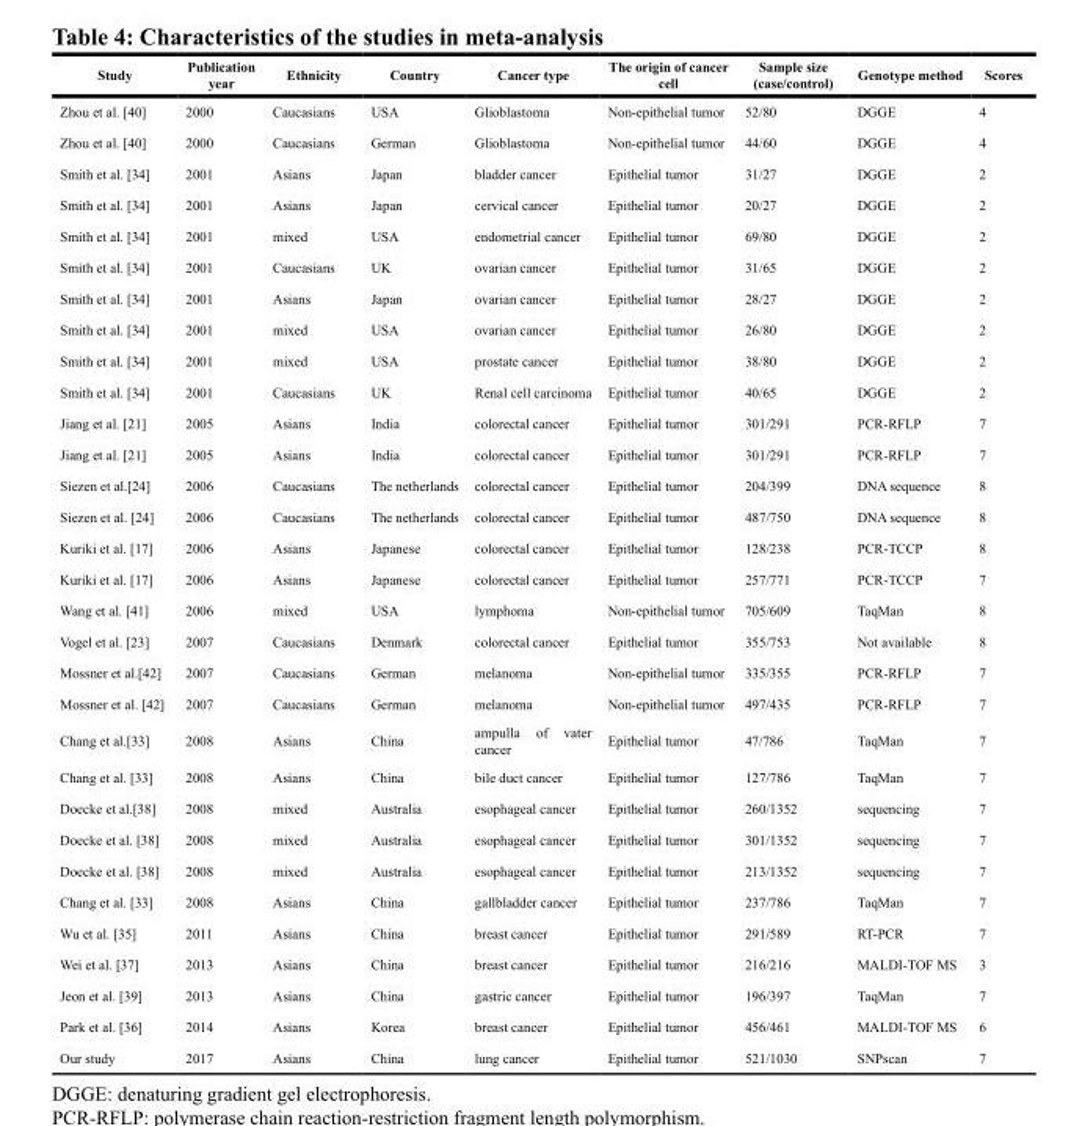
<table><thead><tr><td>Study</td><td>Publication year</td><td>Ethnicity</td><td>Country</td><td>Cancer type</td><td>The origin of cancer cell</td><td>Sample size (case/control)</td><td>Genotype method</td><td>Scores</td></tr></thead><tbody><tr><td>Zhou et al. [40]</td><td>2000</td><td>Caucasians</td><td>USA</td><td>Glioblastoma</td><td>Non-epithelial tumor</td><td>52/80</td><td>DGGE</td><td>4</td></tr><tr><td>Zhou et al. [40]</td><td>2000</td><td>Caucasians</td><td>German</td><td>Glioblastoma</td><td>Non-epithelial tumor</td><td>44/60</td><td>DGGE</td><td>4</td></tr><tr><td>Smith et al. [34]</td><td>2001</td><td>Asians</td><td>Japan</td><td>bladder cancer</td><td>Epithelial tumor</td><td>31/27</td><td>DGGE</td><td>2</td></tr><tr><td>Smith et al. [34]</td><td>2001</td><td>Asians</td><td>Japan</td><td>cervical cancer</td><td>Epithelial tumor</td><td>20/27</td><td>DGGE</td><td>2</td></tr><tr><td>Smith et al. [34]</td><td>2001</td><td>mixed</td><td>USA</td><td>endometrial cancer</td><td>Epithelial tumor</td><td>69/80</td><td>DGGE</td><td>2</td></tr><tr><td>Smith et al. [34]</td><td>2001</td><td>Caucasians</td><td>UK</td><td>ovarian cancer</td><td>Epithelial tumor</td><td>31/65</td><td>DGGE</td><td>2</td></tr><tr><td>Smith et al. [34]</td><td>2001</td><td>Asians</td><td>Japan</td><td>ovarian cancer</td><td>Epithelial tumor</td><td>28/27</td><td>DGGE</td><td>2</td></tr><tr><td>Smith et al. [34]</td><td>2001</td><td>mixed</td><td>USA</td><td>ovarian cancer</td><td>Epithelial tumor</td><td>26/80</td><td>DGGE</td><td>2</td></tr><tr><td>Smith et al. [34]</td><td>2001</td><td>mixed</td><td>USA</td><td>prostate cancer</td><td>Epithelial tumor</td><td>38/80</td><td>DGGE</td><td>2</td></tr><tr><td>Smith et al. [34]</td><td>2001</td><td>Caucasians</td><td>UK</td><td>Renal cell carcinoma</td><td>Epithelial tumor</td><td>40/65</td><td>DGGE</td><td>2</td></tr><tr><td>Jiang et al. [21]</td><td>2005</td><td>Asians</td><td>India</td><td>colorectal cancer</td><td>Epithelial tumor</td><td>301/291</td><td>PCR-RFLP</td><td>7</td></tr><tr><td>Jiang et al. [21]</td><td>2005</td><td>Asians</td><td>India</td><td>colorectal cancer</td><td>Epithelial tumor</td><td>301/291</td><td>PCR-RFLP</td><td>7</td></tr><tr><td>Siezen et al.[24]</td><td>2006</td><td>Caucasians</td><td>The netherlands</td><td>colorectal cancer</td><td>Epithelial tumor</td><td>204/399</td><td>DNA sequence</td><td>8</td></tr><tr><td>Siezen et al. [24]</td><td>2006</td><td>Caucasians</td><td>The netherlands</td><td>colorectal cancer</td><td>Epithelial tumor</td><td>487/750</td><td>DNA sequence</td><td>8</td></tr><tr><td>Kuriki et al. [17]</td><td>2006</td><td>Asians</td><td>Japanese</td><td>colorectal cancer</td><td>Epithelial tumor</td><td>128/238</td><td>PCR-TCCP</td><td>8</td></tr><tr><td>Kuriki et al. [17]</td><td>2006</td><td>Asians</td><td>Japanese</td><td>colorectal cancer</td><td>Epithelial tumor</td><td>257/771</td><td>PCR-TCCP</td><td>7</td></tr><tr><td>Wang et al. [41]</td><td>2006</td><td>mixed</td><td>USA</td><td>lymphoma</td><td>Non-epithelial tumor</td><td>705/609</td><td>TaqMan</td><td>8</td></tr><tr><td>Vogel et al. [23]</td><td>2007</td><td>Caucasians</td><td>Denmark</td><td>colorectal cancer</td><td>Epithelial tumor</td><td>355/753</td><td>Not available</td><td>8</td></tr><tr><td>Mossner et al.[42]</td><td>2007</td><td>Caucasians</td><td>German</td><td>melanoma</td><td>Non-epithelial tumor</td><td>335/355</td><td>PCR-RFLP</td><td>7</td></tr><tr><td>Mossner et al. [42]</td><td>2007</td><td>Caucasians</td><td>German</td><td>melanoma</td><td>Non-epithelial tumor</td><td>497/435</td><td>PCR-RFLP</td><td>7</td></tr><tr><td>Chang et al.[33]</td><td>2008</td><td>Asians</td><td>China</td><td>ampulla of vater cancer</td><td>Epithelial tumor</td><td>47/786</td><td>TaqMan</td><td>7</td></tr><tr><td>Chang et al. [33]</td><td>2008</td><td>Asians</td><td>China</td><td>bile duct cancer</td><td>Epithelial tumor</td><td>127/786</td><td>TaqMan</td><td>7</td></tr><tr><td>Doecke et al.[38]</td><td>2008</td><td>mixed</td><td>Australia</td><td>esophageal cancer</td><td>Epithelial tumor</td><td>260/1352</td><td>sequencing</td><td>7</td></tr><tr><td>Doecke et al. [38]</td><td>2008</td><td>mixed</td><td>Australia</td><td>esophageal cancer</td><td>Epithelial tumor</td><td>301/1352</td><td>sequencing</td><td>7</td></tr><tr><td>Doecke et al. [38]</td><td>2008</td><td>mixed</td><td>Australia</td><td>esophageal cancer</td><td>Epithelial tumor</td><td>213/1352</td><td>sequencing</td><td>7</td></tr><tr><td>Chang et al. [33]</td><td>2008</td><td>Asians</td><td>China</td><td>gallbladder cancer</td><td>Epithelial tumor</td><td>237/786</td><td>TaqMan</td><td>7</td></tr><tr><td>Wu et al. [35]</td><td>2011</td><td>Asians</td><td>China</td><td>breast cancer</td><td>Epithelial tumor</td><td>291/589</td><td>RT-PCR</td><td>7</td></tr><tr><td>Wei et al. [37]</td><td>2013</td><td>Asians</td><td>China</td><td>breast cancer</td><td>Epithelial tumor</td><td>216/216</td><td>MALDI-TOF MS</td><td>3</td></tr><tr><td>Jeon et al. [39]</td><td>2013</td><td>Asians</td><td>China</td><td>gastric cancer</td><td>Epithelial tumor</td><td>196/397</td><td>TaqMan</td><td>7</td></tr><tr><td>Park et al. [36]</td><td>2014</td><td>Asians</td><td>Korea</td><td>breast cancer</td><td>Epithelial tumor</td><td>456/461</td><td>MALDI-TOF MS</td><td>6</td></tr><tr><td>Our study</td><td>2017</td><td>Asians</td><td>China</td><td>lung cancer</td><td>Epithelial tumor</td><td>521/1030</td><td>SNPscan</td><td>7</td></tr></tbody></table>